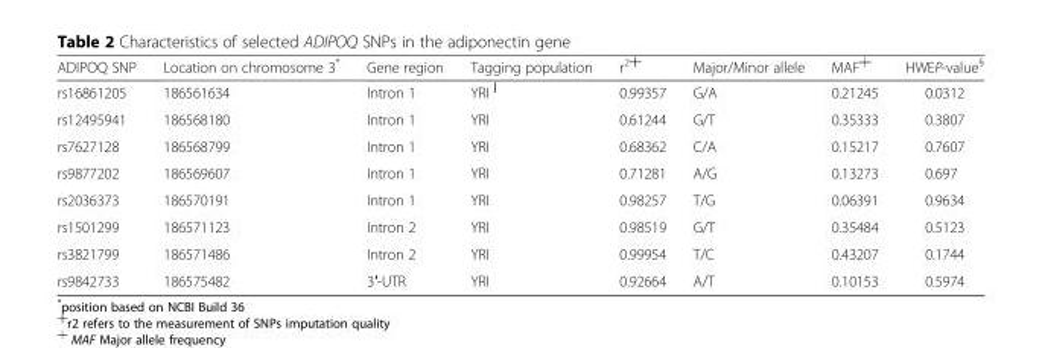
<table><thead><tr><td>ADIPOQ SNP</td><td>Location on chromosome 3*</td><td>Gene region</td><td>Tagging population</td><td>r<sup>2┼</sup></td><td>Major/Minor allele</td><td>MAF<sup>╪</sup></td><td>HWEP-value<sup>§</sup></td></tr></thead><tbody><tr><td>rs16861205</td><td>186561634</td><td>Intron 1</td><td>YRI<sup>║</sup></td><td>0.99357</td><td>G/A</td><td>0.21245</td><td>0.0312</td></tr><tr><td>rs12495941</td><td>186568180</td><td>Intron 1</td><td>YRI</td><td>0.61244</td><td>G/T</td><td>0.35333</td><td>0.3807</td></tr><tr><td>rs7627128</td><td>186568799</td><td>Intron 1</td><td>YRI</td><td>0.68362</td><td>C/A</td><td>0.15217</td><td>0.7607</td></tr><tr><td>rs9877202</td><td>186569607</td><td>Intron 1</td><td>YRI</td><td>0.71281</td><td>A/G</td><td>0.13273</td><td>0.697</td></tr><tr><td>rs2036373</td><td>186570191</td><td>Intron 1</td><td>YRI</td><td>0.98257</td><td>T/G</td><td>0.06391</td><td>0.9634</td></tr><tr><td>rs1501299</td><td>186571123</td><td>Intron 2</td><td>YRI</td><td>0.98519</td><td>G/T</td><td>0.35484</td><td>0.5123</td></tr><tr><td>rs3821799</td><td>186571486</td><td>Intron 2</td><td>YRI</td><td>0.99954</td><td>T/C</td><td>0.43207</td><td>0.1744</td></tr><tr><td>rs9842733</td><td>186575482</td><td>3′-UTR</td><td>YRI</td><td>0.92664</td><td>A/T</td><td>0.10153</td><td>0.5974</td></tr></tbody></table>